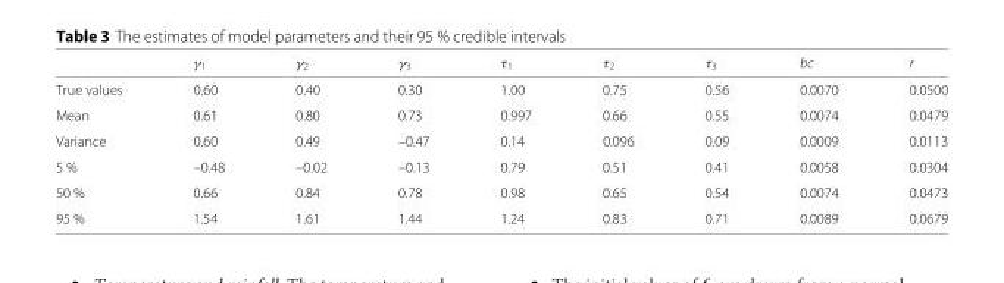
<table><thead><tr><td></td><td>γ<sub>1</sub></td><td>γ<sub>2</sub></td><td>γ<sub>3</sub></td><td>τ<sub>1</sub></td><td>τ<sub>2</sub></td><td>τ<sub>3</sub></td><td>bc</td><td>r</td></tr></thead><tbody><tr><td>True values</td><td>0.60</td><td>0.40</td><td>0.30</td><td>1.00</td><td>0.75</td><td>0.56</td><td>0.0070</td><td>0.0500</td></tr><tr><td>Mean</td><td>0.61</td><td>0.80</td><td>0.73</td><td>0.997</td><td>0.66</td><td>0.55</td><td>0.0074</td><td>0.0479</td></tr><tr><td>Variance</td><td>0.60</td><td>0.49</td><td>–0.47</td><td>0.14</td><td>0.096</td><td>0.09</td><td>0.0009</td><td>0.0113</td></tr><tr><td>5 %</td><td>–0.48</td><td>–0.02</td><td>–0.13</td><td>0.79</td><td>0.51</td><td>0.41</td><td>0.0058</td><td>0.0304</td></tr><tr><td>50 %</td><td>0.66</td><td>0.84</td><td>0.78</td><td>0.98</td><td>0.65</td><td>0.54</td><td>0.0074</td><td>0.0473</td></tr><tr><td>95 %</td><td>1.54</td><td>1.61</td><td>1.44</td><td>1.24</td><td>0.83</td><td>0.71</td><td>0.0089</td><td>0.0679</td></tr></tbody></table>